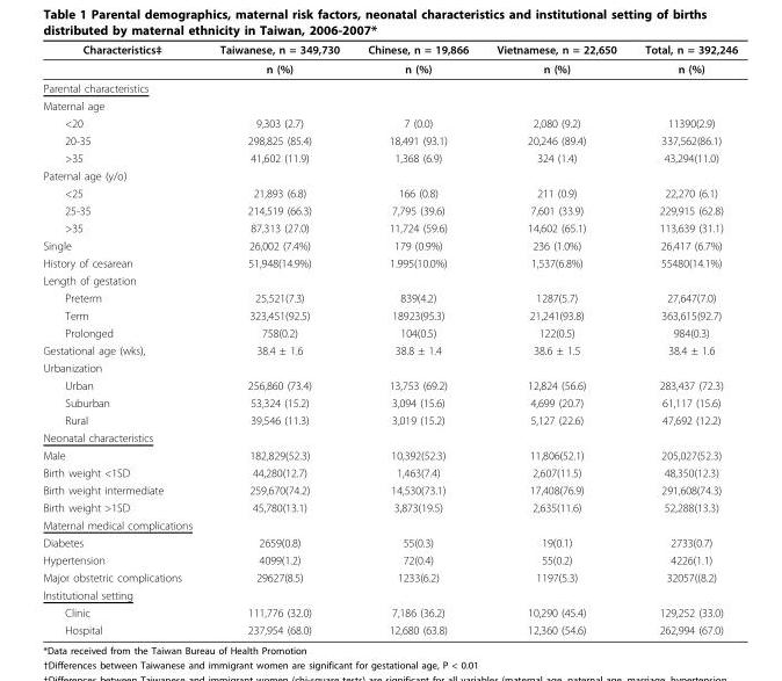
<table><thead><tr><td>Characteristics‡</td><td>Taiwanese, n = 349,730</td><td>Chinese, n = 19,866</td><td>Vietnamese, n = 22,650</td><td>Total, n = 392,246</td></tr></thead><tbody><tr><td></td><td>n (%)</td><td>n (%)</td><td>n (%)</td><td>n (%)</td></tr><tr><td colspan="5">Parental characteristics</td></tr><tr><td colspan="5">Maternal age</td></tr><tr><td>&lt;20</td><td>9,303 (2.7)</td><td>7 (0.0)</td><td>2,080 (9.2)</td><td>11390(2.9)</td></tr><tr><td>20-35</td><td>298,825 (85.4)</td><td>18,491 (93.1)</td><td>20,246 (89.4)</td><td>337,562(86.1)</td></tr><tr><td>&gt;35</td><td>41,602 (11.9)</td><td>1,368 (6.9)</td><td>324 (1.4)</td><td>43,294(11.0)</td></tr><tr><td colspan="5">Paternal age (y/o)</td></tr><tr><td>&lt;25</td><td>21,893 (6.8)</td><td>166 (0.8)</td><td>211 (0.9)</td><td>22,270 (6.1)</td></tr><tr><td>25-35</td><td>214,519 (66.3)</td><td>7,795 (39.6)</td><td>7,601 (33.9)</td><td>229,915 (62.8)</td></tr><tr><td>&gt;35</td><td>87,313 (27.0)</td><td>11,724 (59.6)</td><td>14,602 (65.1)</td><td>113,639 (31.1)</td></tr><tr><td>Single</td><td>26,002 (7.4%)</td><td>179 (0.9%)</td><td>236 (1.0%)</td><td>26,417 (6.7%)</td></tr><tr><td>History of cesarean</td><td>51,948(14.9%)</td><td>1.995(10.0%)</td><td>1,537(6.8%)</td><td>55480(14.1%)</td></tr><tr><td colspan="5">Length of gestation</td></tr><tr><td>Preterm</td><td>25,521(7.3)</td><td>839(4.2)</td><td>1287(5.7)</td><td>27,647(7.0)</td></tr><tr><td>Term</td><td>323,451(92.5)</td><td>18923(95.3)</td><td>21,241(93.8)</td><td>363,615(92.7)</td></tr><tr><td>Prolonged</td><td>758(0.2)</td><td>104(0.5)</td><td>122(0.5)</td><td>984(0.3)</td></tr><tr><td>Gestational age (wks),</td><td>38.4 ± 1.6</td><td>38.8 ± 1.4</td><td>38.6 ± 1.5</td><td>38.4 ± 1.6</td></tr><tr><td colspan="5">Urbanization</td></tr><tr><td>Urban</td><td>256,860 (73.4)</td><td>13,753 (69.2)</td><td>12,824 (56.6)</td><td>283,437 (72.3)</td></tr><tr><td>Suburban</td><td>53,324 (15.2)</td><td>3,094 (15.6)</td><td>4,699 (20.7)</td><td>61,117 (15.6)</td></tr><tr><td>Rural</td><td>39,546 (11.3)</td><td>3,019 (15.2)</td><td>5,127 (22.6)</td><td>47,692 (12.2)</td></tr><tr><td colspan="5">Neonatal characteristics</td></tr><tr><td>Male</td><td>182,829(52.3)</td><td>10,392(52.3)</td><td>11,806(52.1)</td><td>205,027(52.3)</td></tr><tr><td>Birth weight &lt;1SD</td><td>44,280(12.7)</td><td>1,463(7.4)</td><td>2,607(11.5)</td><td>48,350(12.3)</td></tr><tr><td>Birth weight intermediate</td><td>259,670(74.2)</td><td>14,530(73.1)</td><td>17,408(76.9)</td><td>291,608(74.3)</td></tr><tr><td>Birth weight &gt;1SD</td><td>45,780(13.1)</td><td>3,873(19.5)</td><td>2,635(11.6)</td><td>52,288(13.3)</td></tr><tr><td colspan="5">Maternal medical complications</td></tr><tr><td>Diabetes</td><td>2659(0.8)</td><td>55(0.3)</td><td>19(0.1)</td><td>2733(0.7)</td></tr><tr><td>Hypertension</td><td>4099(1.2)</td><td>72(0.4)</td><td>55(0.2)</td><td>4226(1.1)</td></tr><tr><td>Major obstetric complications</td><td>29627(8.5)</td><td>1233(6.2)</td><td>1197(5.3)</td><td>32057((8.2)</td></tr><tr><td colspan="5">Institutional setting</td></tr><tr><td>Clinic</td><td>111,776 (32.0)</td><td>7,186 (36.2)</td><td>10,290 (45.4)</td><td>129,252 (33.0)</td></tr><tr><td>Hospital</td><td>237,954 (68.0)</td><td>12,680 (63.8)</td><td>12,360 (54.6)</td><td>262,994 (67.0)</td></tr></tbody></table>